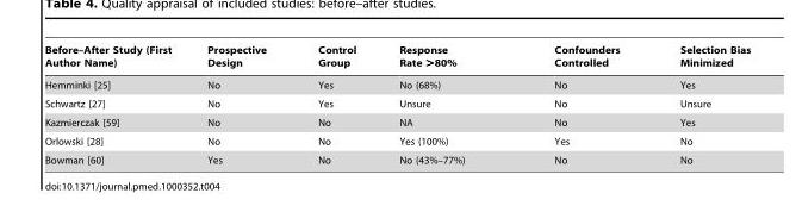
<table><thead><tr><td>Before–After Study (First Author Name)</td><td>Prospective Design</td><td>Control Group</td><td>Response Rate &gt;80%</td><td>Confounders Controlled</td><td>Selection Bias Minimized</td></tr></thead><tbody><tr><td>Hemminki [25]</td><td>No</td><td>Yes</td><td>No (68%)</td><td>No</td><td>Yes</td></tr><tr><td>Schwartz [27]</td><td>No</td><td>Yes</td><td>Unsure</td><td>No</td><td>Unsure</td></tr><tr><td>Kazmierczak [59]</td><td>No</td><td>No</td><td>NA</td><td>No</td><td>Yes</td></tr><tr><td>Orlowski [28]</td><td>No</td><td>No</td><td>Yes (100%)</td><td>Yes</td><td>No</td></tr><tr><td>Bowman [60]</td><td>Yes</td><td>No</td><td>No (43%–77%)</td><td>No</td><td>No</td></tr></tbody></table>